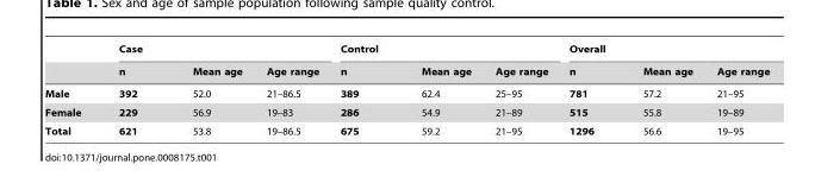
<table><thead><tr><td rowspan="2"></td><td colspan="3">Case</td><td colspan="3">Control</td><td colspan="3">Overall</td></tr><tr><td>n</td><td>Mean age</td><td>Age range</td><td>n</td><td>Mean age</td><td>Age range</td><td>n</td><td>Mean age</td><td>Age range</td></tr></thead><tbody><tr><td>Male</td><td>392</td><td>52.0</td><td>21–86.5</td><td>389</td><td>62.4</td><td>25–95</td><td>781</td><td>57.2</td><td>21–95</td></tr><tr><td>Female</td><td>229</td><td>56.9</td><td>19–83</td><td>286</td><td>54.9</td><td>21–89</td><td>515</td><td>55.8</td><td>19–89</td></tr><tr><td>Total</td><td>621</td><td>53.8</td><td>19–86.5</td><td>675</td><td>59.2</td><td>21–95</td><td>1296</td><td>56.6</td><td>19–95</td></tr></tbody></table>